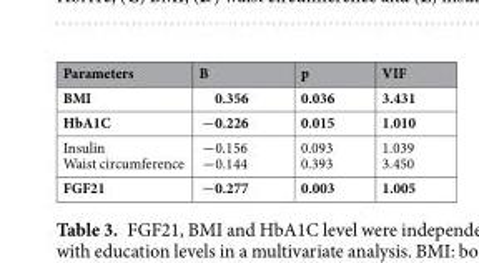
<table><thead><tr><td>Parameters</td><td>B</td><td>p</td><td>VIF</td></tr></thead><tbody><tr><td>BMI</td><td>0.356</td><td>0.036</td><td>3.431</td></tr><tr><td>HbA1C</td><td>−0.226</td><td>0.015</td><td>1.010</td></tr><tr><td>Insulin Waist circumference</td><td>−0.156 −0.144</td><td>0.093 0.393</td><td>1.039 3.450</td></tr><tr><td>FGF21</td><td>−0.277</td><td>0.003</td><td>1.005</td></tr></tbody></table>